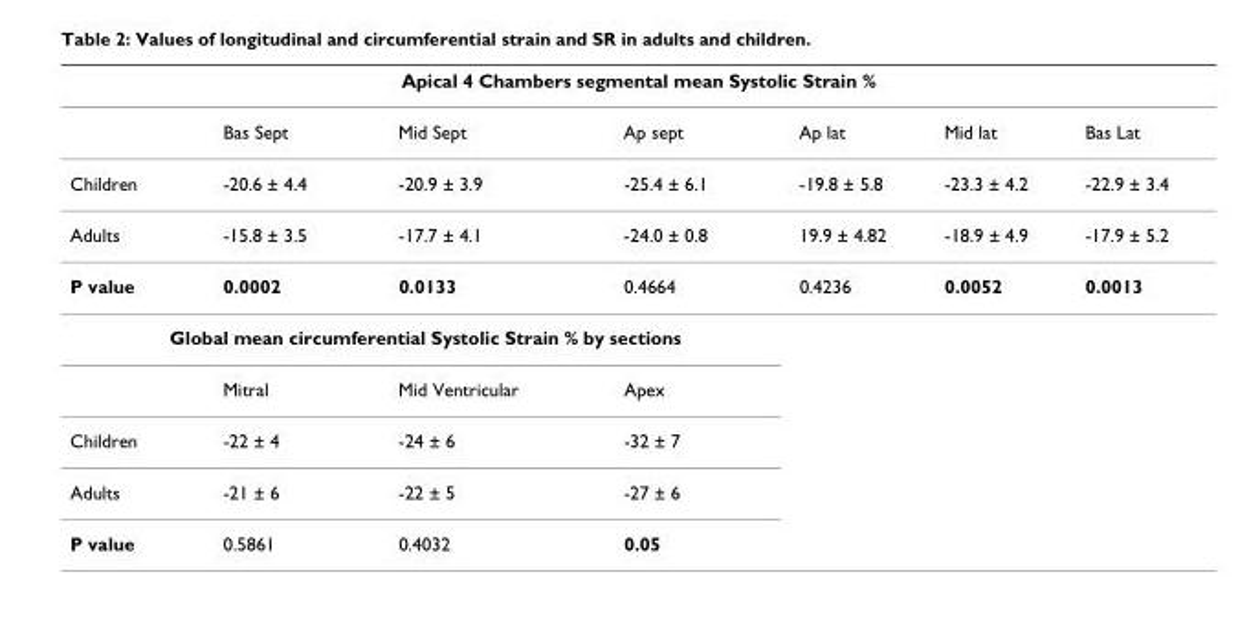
<table><thead><tr><td colspan="7">Apical 4 Chambers segmental mean Systolic Strain %</td></tr><tr><td></td><td>Bas Sept</td><td>Mid Sept</td><td>Ap sept</td><td>Ap lat</td><td>Mid lat</td><td>Bas Lat</td></tr></thead><tbody><tr><td>Children</td><td>-20.6 ± 4.4</td><td>-20.9 ± 3.9</td><td>-25.4 ± 6.1</td><td>-19.8 ± 5.8</td><td>-23.3 ± 4.2</td><td>-22.9 ± 3.4</td></tr><tr><td>Adults</td><td>-15.8 ± 3.5</td><td>-17.7 ± 4.1</td><td>-24.0 ± 0.8</td><td>19.9 ± 4.82</td><td>-18.9 ± 4.9</td><td>-17.9 ± 5.2</td></tr><tr><td>P value</td><td>0.0002</td><td>0.0133</td><td>0.4664</td><td>0.4236</td><td>0.0052</td><td>0.0013</td></tr><tr><td colspan="7">Global mean circumferential Systolic Strain % by sections</td></tr><tr><td></td><td>Mitral</td><td>Mid Ventricular</td><td>Apex</td><td></td><td></td><td></td></tr><tr><td>Children</td><td>-22 ± 4</td><td>-24 ± 6</td><td>-32 ± 7</td><td></td><td></td><td></td></tr><tr><td>Adults</td><td>-21 ± 6</td><td>-22 ± 5</td><td>-27 ± 6</td><td></td><td></td><td></td></tr><tr><td>P value</td><td>0.5861</td><td>0.4032</td><td>0.05</td><td></td><td></td><td></td></tr></tbody></table>